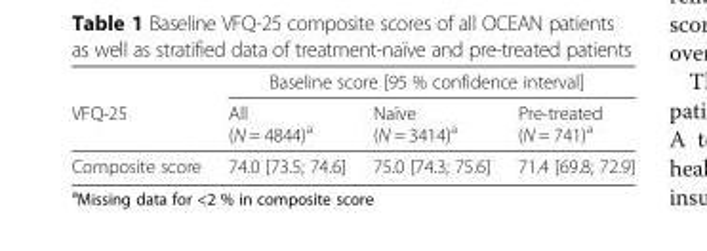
<table><thead><tr><td rowspan="2">VFQ-25</td><td colspan="3">Baseline score [95 % confidence interval]</td></tr><tr><td>All (N = 4844)<sup>a</sup></td><td>Naïve (N = 3414)<sup>a</sup></td><td>Pre-treated (N = 741)<sup>a</sup></td></tr></thead><tbody><tr><td>Composite score</td><td>74.0 [73.5; 74.6]</td><td>75.0 [74.3; 75.6]</td><td>71.4 [69.8; 72.9]</td></tr></tbody></table>